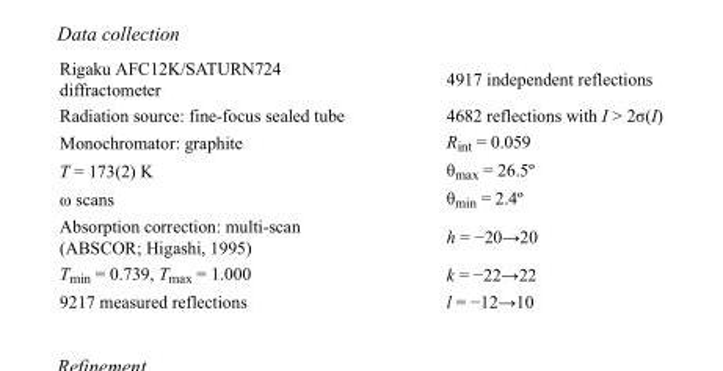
<table><tbody><tr><td>Rigaku AFC12K/SATURN724 diffractometer</td><td>4917 independent reflections</td></tr><tr><td>Radiation source: fine-focus sealed tube</td><td>4682 reflections with I &gt; 2σ(I)</td></tr><tr><td>Monochromator: graphite</td><td>R<sub>int</sub> = 0.059</td></tr><tr><td>T = 173(2) K</td><td>θ<sub>max</sub> = 26.5º</td></tr><tr><td>ω scans</td><td>θ<sub>min</sub> = 2.4º</td></tr><tr><td>Absorption correction: multi-scan (ABSCOR; Higashi, 1995)</td><td>h = −20→20</td></tr><tr><td>T<sub>min</sub> = 0.739, T<sub>max</sub> = 1.000</td><td>k = −22→22</td></tr><tr><td>9217 measured reflections</td><td>l = −12→10</td></tr></tbody></table>